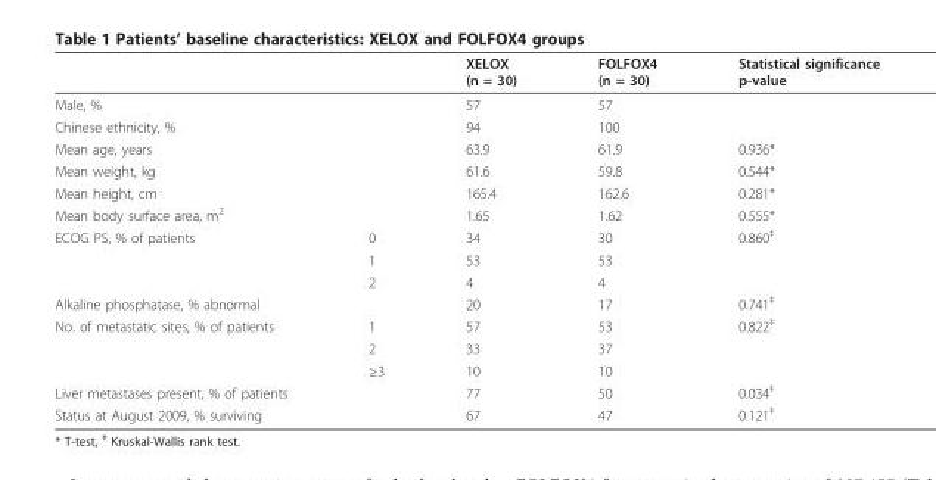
<table><thead><tr><td></td><td></td><td>XELOX (n = 30)</td><td>FOLFOX4 (n = 30)</td><td>Statistical significance p-value</td></tr></thead><tbody><tr><td>Male, %</td><td></td><td>57</td><td>57</td><td></td></tr><tr><td>Chinese ethnicity, %</td><td></td><td>94</td><td>100</td><td></td></tr><tr><td>Mean age, years</td><td></td><td>63.9</td><td>61.9</td><td>0.936*</td></tr><tr><td>Mean weight, kg</td><td></td><td>61.6</td><td>59.8</td><td>0.544*</td></tr><tr><td>Mean height, cm</td><td></td><td>165.4</td><td>162.6</td><td>0.281*</td></tr><tr><td>Mean body surface area, m<sup>2</sup></td><td></td><td>1.65</td><td>1.62</td><td>0.555*</td></tr><tr><td rowspan="3">ECOG PS, % of patients</td><td>0</td><td>34</td><td>30</td><td>0.860<sup>‡</sup></td></tr><tr><td>1</td><td>53</td><td>53</td><td></td></tr><tr><td>2</td><td>4</td><td>4</td><td></td></tr><tr><td>Alkaline phosphatase, % abnormal</td><td></td><td>20</td><td>17</td><td>0.741<sup>‡</sup></td></tr><tr><td rowspan="3">No. of metastatic sites, % of patients</td><td>1</td><td>57</td><td>53</td><td>0.822<sup>‡</sup></td></tr><tr><td>2</td><td>33</td><td>37</td><td></td></tr><tr><td>≥3</td><td>10</td><td>10</td><td></td></tr><tr><td>Liver metastases present, % of patients</td><td></td><td>77</td><td>50</td><td>0.034<sup>‡</sup></td></tr><tr><td>Status at August 2009, % surviving</td><td></td><td>67</td><td>47</td><td>0.121<sup>‡</sup></td></tr></tbody></table>